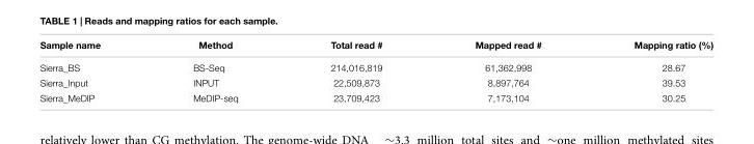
<table><thead><tr><td>Sample name</td><td>Method</td><td>Total read #</td><td>Mapped read #</td><td>Mapping ratio (%)</td></tr></thead><tbody><tr><td>Sierra_BS</td><td>BS-Seq</td><td>214,016,819</td><td>61,362,998</td><td>28.67</td></tr><tr><td>Sierra_Input</td><td>INPUT</td><td>22,509,873</td><td>8,897,764</td><td>39.53</td></tr><tr><td>Sierra_MeDIP</td><td>MeDIP-seq</td><td>23,709,423</td><td>7,173,104</td><td>30.25</td></tr></tbody></table>